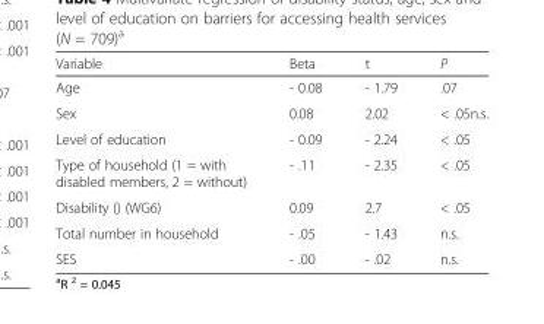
<table><thead><tr><td>Variable</td><td>Beta</td><td>t</td><td>P</td></tr></thead><tbody><tr><td>Age</td><td>- 0.08</td><td>- 1.79</td><td>.07</td></tr><tr><td>Sex</td><td>0.08</td><td>2.02</td><td>&lt; .05n.s.</td></tr><tr><td>Level of education</td><td>- 0.09</td><td>- 2.24</td><td>&lt; .05</td></tr><tr><td>Type of household (1 = with disabled members, 2 = without)</td><td>- .11</td><td>- 2.35</td><td>&lt; .05</td></tr><tr><td>Disability () (WG6)</td><td>0.09</td><td>2.7</td><td>&lt; .05</td></tr><tr><td>Total number in household</td><td>- .05</td><td>- 1.43</td><td>n.s.</td></tr><tr><td>SES</td><td>- .00</td><td>- .02</td><td>n.s.</td></tr></tbody></table>